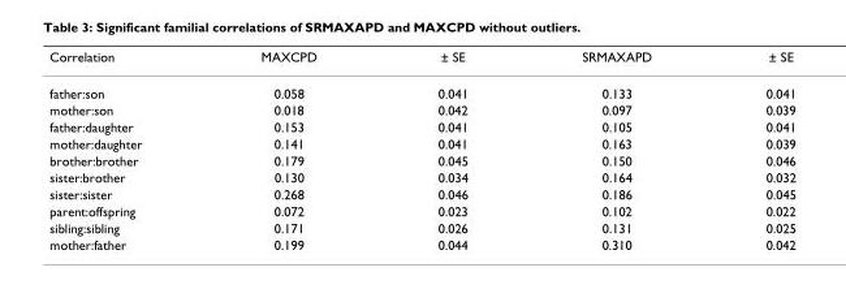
<table><thead><tr><td>Correlation</td><td>MAXCPD</td><td>± SE</td><td>SRMAXAPD</td><td>± SE</td></tr></thead><tbody><tr><td>father:son</td><td>0.058</td><td>0.041</td><td>0.133</td><td>0.041</td></tr><tr><td>mother:son</td><td>0.018</td><td>0.042</td><td>0.097</td><td>0.039</td></tr><tr><td>father:daughter</td><td>0.153</td><td>0.041</td><td>0.105</td><td>0.041</td></tr><tr><td>mother:daughter</td><td>0.141</td><td>0.041</td><td>0.163</td><td>0.039</td></tr><tr><td>brother:brother</td><td>0.179</td><td>0.045</td><td>0.150</td><td>0.046</td></tr><tr><td>sister:brother</td><td>0.130</td><td>0.034</td><td>0.164</td><td>0.032</td></tr><tr><td>sister:sister</td><td>0.268</td><td>0.046</td><td>0.186</td><td>0.045</td></tr><tr><td>parent:offspring</td><td>0.072</td><td>0.023</td><td>0.102</td><td>0.022</td></tr><tr><td>sibling:sibling</td><td>0.171</td><td>0.026</td><td>0.131</td><td>0.025</td></tr><tr><td>mother:father</td><td>0.199</td><td>0.044</td><td>0.310</td><td>0.042</td></tr></tbody></table>